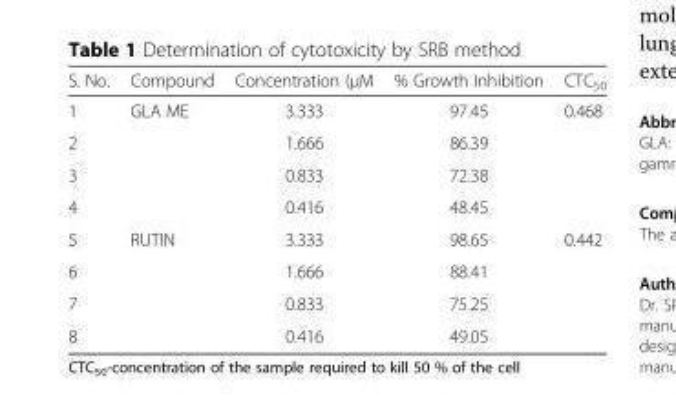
<table><thead><tr><td>S. No.</td><td>Compound</td><td>Concentration (μM</td><td>% Growth Inhibition</td><td>CTC<sub>50</sub></td></tr></thead><tbody><tr><td>1</td><td rowspan="4">GLA ME</td><td>3.333</td><td>97.45</td><td rowspan="4">0.468</td></tr><tr><td>2</td><td>1.666</td><td>86.39</td></tr><tr><td>3</td><td>0.833</td><td>72.38</td></tr><tr><td>4</td><td>0.416</td><td>48.45</td></tr><tr><td>5</td><td rowspan="4">RUTIN</td><td>3.333</td><td>98.65</td><td rowspan="4">0.442</td></tr><tr><td>6</td><td>1.666</td><td>88.41</td></tr><tr><td>7</td><td>0.833</td><td>75.25</td></tr><tr><td>8</td><td>0.416</td><td>49.05</td></tr></tbody></table>